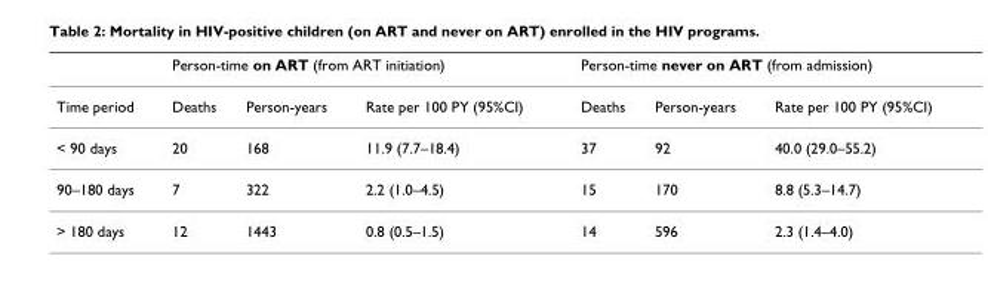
<table><thead><tr><td rowspan="2">Time period</td><td colspan="3">Person-time on ART (from ART initiation)</td><td colspan="3">Person-time never on ART (from admission)</td></tr><tr><td>Deaths</td><td>Person-years</td><td>Rate per 100 PY (95%CI)</td><td>Deaths</td><td>Person-years</td><td>Rate per 100 PY (95%CI)</td></tr></thead><tbody><tr><td>&lt; 90 days</td><td>20</td><td>168</td><td>11.9 (7.7–18.4)</td><td>37</td><td>92</td><td>40.0 (29.0–55.2)</td></tr><tr><td>90–180 days</td><td>7</td><td>322</td><td>2.2 (1.0–4.5)</td><td>15</td><td>170</td><td>8.8 (5.3–14.7)</td></tr><tr><td>&gt; 180 days</td><td>12</td><td>1443</td><td>0.8 (0.5–1.5)</td><td>14</td><td>596</td><td>2.3 (1.4–4.0)</td></tr></tbody></table>